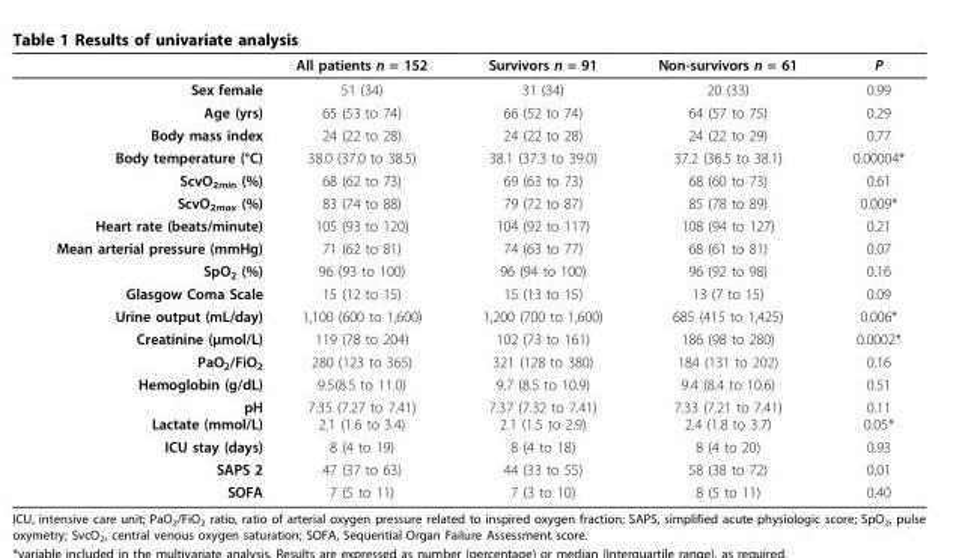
<table><thead><tr><td></td><td>All patients n = 152</td><td>Survivors n = 91</td><td>Non-survivors n = 61</td><td>P</td></tr></thead><tbody><tr><td>Sex female</td><td>51 (34)</td><td>31 (34)</td><td>20 (33)</td><td>0.99</td></tr><tr><td>Age (yrs)</td><td>65 (53 to 74)</td><td>66 (52 to 74)</td><td>64 (57 to 75)</td><td>0.29</td></tr><tr><td>Body mass index</td><td>24 (22 to 28)</td><td>24 (22 to 28)</td><td>24 (22 to 29)</td><td>0.77</td></tr><tr><td>Body temperature (°C)</td><td>38.0 (37.0 to 38.5)</td><td>38.1 (37.3 to 39.0)</td><td>37.2 (36.5 to 38.1)</td><td>0.00004*</td></tr><tr><td>ScvO<sub>2min</sub> (%)</td><td>68 (62 to 73)</td><td>69 (63 to 73)</td><td>68 (60 to 73)</td><td>0.61</td></tr><tr><td>ScvO<sub>2max</sub> (%)</td><td>83 (74 to 88)</td><td>79 (72 to 87)</td><td>85 (78 to 89)</td><td>0.009*</td></tr><tr><td>Heart rate (beats/minute)</td><td>105 (93 to 120)</td><td>104 (92 to 117)</td><td>108 (94 to 127)</td><td>0.21</td></tr><tr><td>Mean arterial pressure (mmHg)</td><td>71 (62 to 81)</td><td>74 (63 to 77)</td><td>68 (61 to 81)</td><td>0.07</td></tr><tr><td>SpO<sub>2</sub> (%)</td><td>96 (93 to 100)</td><td>96 (94 to 100)</td><td>96 (92 to 98)</td><td>0.16</td></tr><tr><td>Glasgow Coma Scale</td><td>15 (12 to 15)</td><td>15 (13 to 15)</td><td>13 (7 to 15)</td><td>0.09</td></tr><tr><td>Urine output (mL/day)</td><td>1,100 (600 to 1,600)</td><td>1,200 (700 to 1,600)</td><td>685 (415 to 1,425)</td><td>0.006*</td></tr><tr><td>Creatinine (μmol/L)</td><td>119 (78 to 204)</td><td>102 (73 to 161)</td><td>186 (98 to 280)</td><td>0.0002*</td></tr><tr><td>PaO<sub>2</sub>/FiO<sub>2</sub></td><td>280 (123 to 365)</td><td>321 (128 to 380)</td><td>184 (131 to 202)</td><td>0.16</td></tr><tr><td>Hemoglobin (g/dL)</td><td>9.5(8.5 to 11.0)</td><td>9.7 (8.5 to 10.9)</td><td>9.4 (8.4 to 10.6)</td><td>0.51</td></tr><tr><td>pH Lactate (mmol/L)</td><td>7.35 (7.27 to 7.41) 2.1 (1.6 to 3.4)</td><td>7.37 (7.32 to 7.41) 2.1 (1.5 to 2.9)</td><td>7.33 (7.21 to 7.41) 2.4 (1.8 to 3.7)</td><td>0.11 0.05*</td></tr><tr><td>ICU stay (days)</td><td>8 (4 to 19)</td><td>8 (4 to 18)</td><td>8 (4 to 20)</td><td>0.93</td></tr><tr><td>SAPS 2</td><td>47 (37 to 63)</td><td>44 (33 to 55)</td><td>58 (38 to 72)</td><td>0.01</td></tr><tr><td>SOFA</td><td>7 (5 to 11)</td><td>7 (3 to 10)</td><td>8 (5 to 11)</td><td>0.40</td></tr></tbody></table>